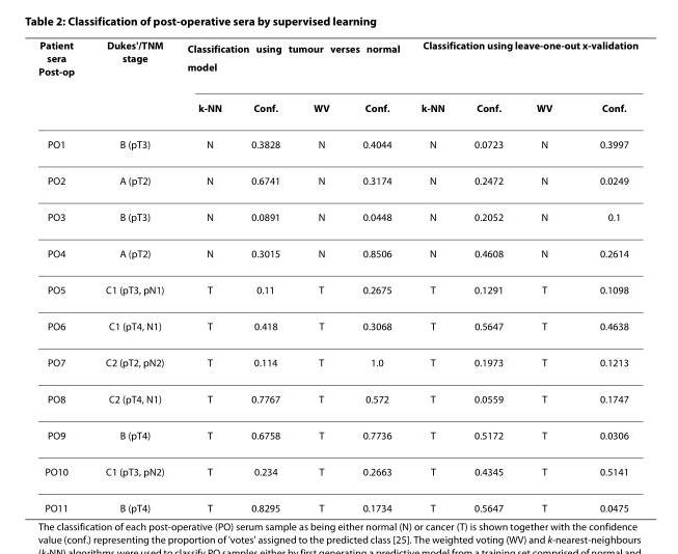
<table><thead><tr><td rowspan="2">Patient sera Post-op</td><td rowspan="2">Dukes&#x27;/TNM stage</td><td colspan="4">Classification using tumour verses normal model</td><td colspan="4">Classification using leave-one-out x-validation</td></tr><tr><td>k-NN</td><td>Conf.</td><td>WV</td><td>Conf.</td><td>k-NN</td><td>Conf.</td><td>WV</td><td>Conf.</td></tr></thead><tbody><tr><td>PO1</td><td>B (pT3)</td><td>N</td><td>0.3828</td><td>N</td><td>0.4044</td><td>N</td><td>0.0723</td><td>N</td><td>0.3997</td></tr><tr><td>PO2</td><td>A (pT2)</td><td>N</td><td>0.6741</td><td>N</td><td>0.3174</td><td>N</td><td>0.2472</td><td>N</td><td>0.0249</td></tr><tr><td>PO3</td><td>B (pT3)</td><td>N</td><td>0.0891</td><td>N</td><td>0.0448</td><td>N</td><td>0.2052</td><td>N</td><td>0.1</td></tr><tr><td>PO4</td><td>A (pT2)</td><td>N</td><td>0.3015</td><td>N</td><td>0.8506</td><td>N</td><td>0.4608</td><td>N</td><td>0.2614</td></tr><tr><td>PO5</td><td>C1 (pT3, pN1)</td><td>T</td><td>0.11</td><td>T</td><td>0.2675</td><td>T</td><td>0.1291</td><td>T</td><td>0.1098</td></tr><tr><td>PO6</td><td>C1 (pT4, N1)</td><td>T</td><td>0.418</td><td>T</td><td>0.3068</td><td>T</td><td>0.5647</td><td>T</td><td>0.4638</td></tr><tr><td>PO7</td><td>C2 (pT2, pN2)</td><td>T</td><td>0.114</td><td>T</td><td>1.0</td><td>T</td><td>0.1973</td><td>T</td><td>0.1213</td></tr><tr><td>PO8</td><td>C2 (pT4, N1)</td><td>T</td><td>0.7767</td><td>T</td><td>0.572</td><td>T</td><td>0.0559</td><td>T</td><td>0.1747</td></tr><tr><td>PO9</td><td>B (pT4)</td><td>T</td><td>0.6758</td><td>T</td><td>0.7736</td><td>T</td><td>0.5172</td><td>T</td><td>0.0306</td></tr><tr><td>PO10</td><td>C1 (pT3, pN2)</td><td>T</td><td>0.234</td><td>T</td><td>0.2663</td><td>T</td><td>0.4345</td><td>T</td><td>0.5141</td></tr><tr><td>PO11</td><td>B (pT4)</td><td>T</td><td>0.8295</td><td>T</td><td>0.1734</td><td>T</td><td>0.5647</td><td>T</td><td>0.0475</td></tr></tbody></table>